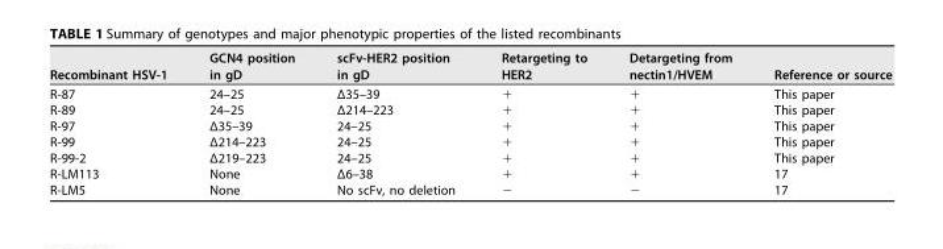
<table><thead><tr><td>Recombinant HSV-1</td><td>GCN4 position in gD</td><td>scFv-HER2 position in gD</td><td>Retargeting to HER2</td><td>Detargeting from nectin1/HVEM</td><td>Reference or source</td></tr></thead><tbody><tr><td>R-87</td><td>24–25</td><td>Δ35–39</td><td>+</td><td>+</td><td>This paper</td></tr><tr><td>R-89</td><td>24–25</td><td>Δ214–223</td><td>+</td><td>+</td><td>This paper</td></tr><tr><td>R-97</td><td>Δ35–39</td><td>24–25</td><td>+</td><td>+</td><td>This paper</td></tr><tr><td>R-99</td><td>Δ214–223</td><td>24–25</td><td>+</td><td>+</td><td>This paper</td></tr><tr><td>R-99-2</td><td>Δ219–223</td><td>24–25</td><td>+</td><td>+</td><td>This paper</td></tr><tr><td>R-LM113</td><td>None</td><td>Δ6–38</td><td>+</td><td>+</td><td>17</td></tr><tr><td>R-LM5</td><td>None</td><td>No scFv, no deletion</td><td>−</td><td>−</td><td>17</td></tr></tbody></table>